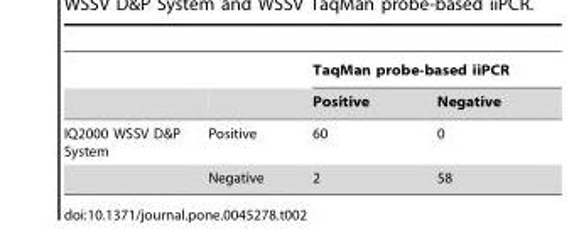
<table><thead><tr><td rowspan="2"></td><td rowspan="2"></td><td colspan="2">TaqMan probe-based iiPCR</td></tr><tr><td>Positive</td><td>Negative</td></tr></thead><tbody><tr><td rowspan="2">IQ2000 WSSV D&amp;P System</td><td>Positive</td><td>60</td><td>0</td></tr><tr><td>Negative</td><td>2</td><td>58</td></tr></tbody></table>